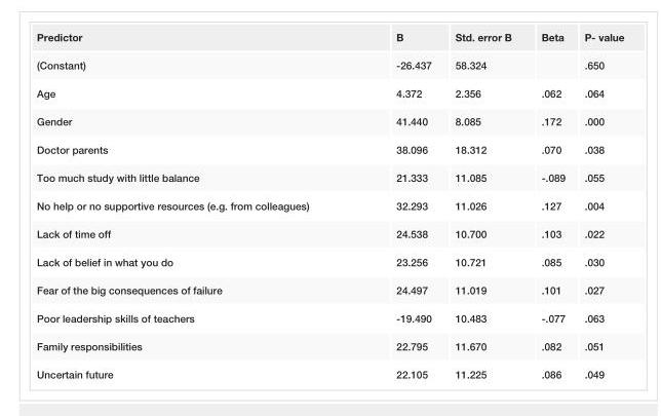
<table><tbody><tr><td>Predictor</td><td>B</td><td>Std. error B</td><td>Beta</td><td>P- value</td></tr><tr><td>(Constant)</td><td>-26.437</td><td>58.324</td><td></td><td>.650</td></tr><tr><td>Age</td><td>4.372</td><td>2.356</td><td>.062</td><td>.064</td></tr><tr><td>Gender</td><td>41.440</td><td>8.085</td><td>.172</td><td>.000</td></tr><tr><td>Doctor parents</td><td>38.096</td><td>18.312</td><td>.070</td><td>.038</td></tr><tr><td>Too much study with little balance</td><td>21.333</td><td>11.085</td><td>-.089</td><td>.055</td></tr><tr><td>No help or no supportive resources (e.g. from colleagues)</td><td>32.293</td><td>11.026</td><td>.127</td><td>.004</td></tr><tr><td>Lack of time off</td><td>24.538</td><td>10.700</td><td>.103</td><td>.022</td></tr><tr><td>Lack of belief in what you do</td><td>23.256</td><td>10.721</td><td>.085</td><td>.030</td></tr><tr><td>Fear of the big consequences of failure</td><td>24.497</td><td>11.019</td><td>.101</td><td>.027</td></tr><tr><td>Poor leadership skills of teachers</td><td>-19.490</td><td>10.483</td><td>-.077</td><td>.063</td></tr><tr><td>Family responsibilities</td><td>22.795</td><td>11.670</td><td>.082</td><td>.051</td></tr><tr><td>Uncertain future</td><td>22.105</td><td>11.225</td><td>.086</td><td>.049</td></tr></tbody></table>